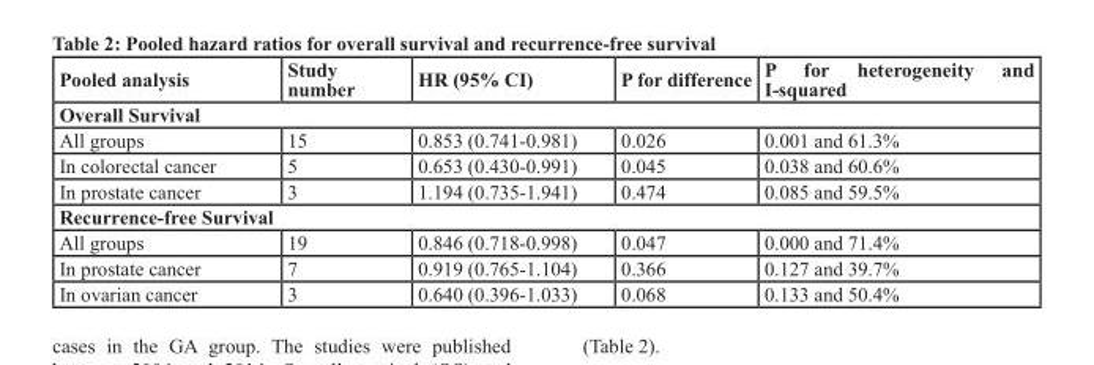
<table><thead><tr><td>Pooled analysis</td><td>Study number</td><td>HR (95% CI)</td><td>P for difference</td><td>P for heterogeneity and I-squared</td></tr></thead><tbody><tr><td colspan="5">Overall Survival</td></tr><tr><td>All groups</td><td>15</td><td>0.853 (0.741-0.981)</td><td>0.026</td><td>0.001 and 61.3%</td></tr><tr><td>In colorectal cancer</td><td>5</td><td>0.653 (0.430-0.991)</td><td>0.045</td><td>0.038 and 60.6%</td></tr><tr><td>In prostate cancer</td><td>3</td><td>1.194 (0.735-1.941)</td><td>0.474</td><td>0.085 and 59.5%</td></tr><tr><td colspan="5">Recurrence-free Survival</td></tr><tr><td>All groups</td><td>19</td><td>0.846 (0.718-0.998)</td><td>0.047</td><td>0.000 and 71.4%</td></tr><tr><td>In prostate cancer</td><td>7</td><td>0.919 (0.765-1.104)</td><td>0.366</td><td>0.127 and 39.7%</td></tr><tr><td>In ovarian cancer</td><td>3</td><td>0.640 (0.396-1.033)</td><td>0.068</td><td>0.133 and 50.4%</td></tr></tbody></table>